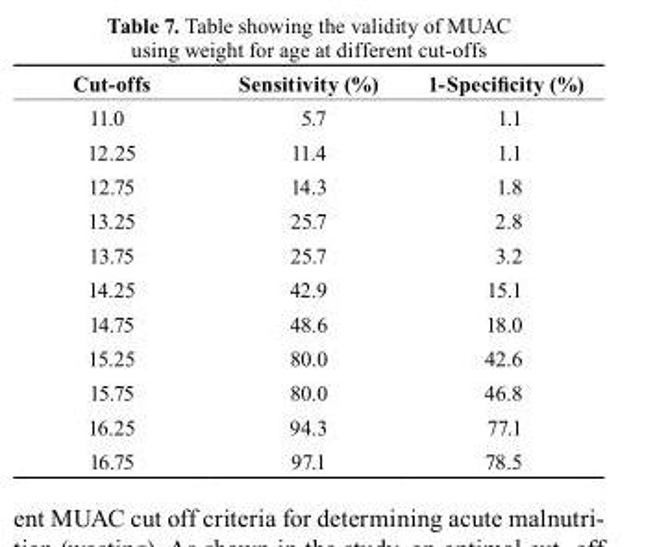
<table><thead><tr><td>cut-offs</td><td>Sensitivity (%)</td><td>1-Specificity (%)</td></tr></thead><tbody><tr><td>11.0</td><td>5.7</td><td>1.1</td></tr><tr><td>12.25</td><td>11.4</td><td>1.1</td></tr><tr><td>12.75</td><td>14.3</td><td>1.8</td></tr><tr><td>13.25</td><td>25.7</td><td>2.8</td></tr><tr><td>13.75</td><td>25.7</td><td>3.2</td></tr><tr><td>14.25</td><td>42.9</td><td>15.1</td></tr><tr><td>14.75</td><td>48.6</td><td>18.0</td></tr><tr><td>15.25</td><td>80.0</td><td>42.6</td></tr><tr><td>15.75</td><td>80.0</td><td>46.8</td></tr><tr><td>16.25</td><td>94.3</td><td>77.1</td></tr><tr><td>16.75</td><td>97.1</td><td>78.5</td></tr></tbody></table>